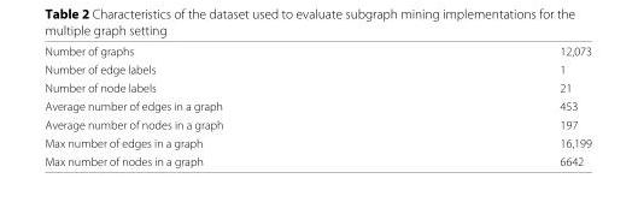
<table><tbody><tr><td>Number of graphs</td><td>12,073</td></tr><tr><td>Number of edge labels</td><td>1</td></tr><tr><td>Number of node labels</td><td>21</td></tr><tr><td>Average number of edges in a graph</td><td>453</td></tr><tr><td>Average number of nodes in a graph</td><td>197</td></tr><tr><td>Max number of edges in a graph</td><td>16,199</td></tr><tr><td>Max number of nodes in a graph</td><td>6642</td></tr></tbody></table>